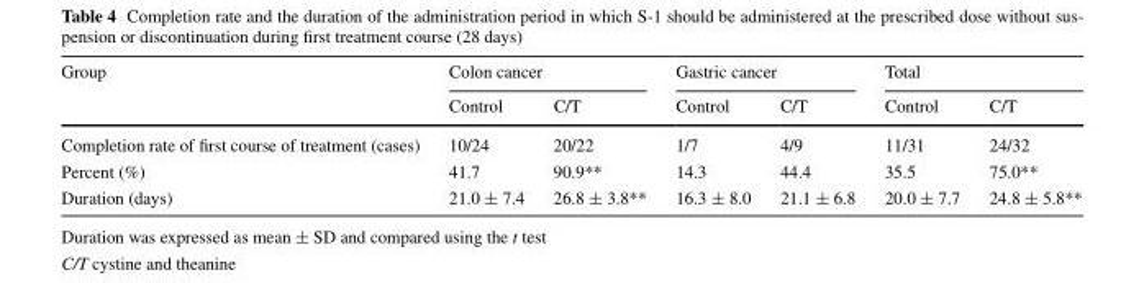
<table><thead><tr><td rowspan="2">Group</td><td colspan="2">Colon cancer</td><td colspan="2">Gastric cancer</td><td colspan="2">Total</td></tr><tr><td>Control</td><td>C/T</td><td>Control</td><td>C/T</td><td>Control</td><td>C/T</td></tr></thead><tbody><tr><td>Completion rate of first course of treatment (cases)</td><td>10/24</td><td>20/22</td><td>1/7</td><td>4/9</td><td>11/31</td><td>24/32</td></tr><tr><td>Percent (%)</td><td>41.7</td><td>90.9**</td><td>14.3</td><td>44.4</td><td>35.5</td><td>75.0**</td></tr><tr><td>Duration (days)</td><td>21.0 ± 7.4</td><td>26.8 ± 3.8**</td><td>16.3 ± 8.0</td><td>21.1 ± 6.8</td><td>20.0 ± 7.7</td><td>24.8 ± 5.8**</td></tr></tbody></table>